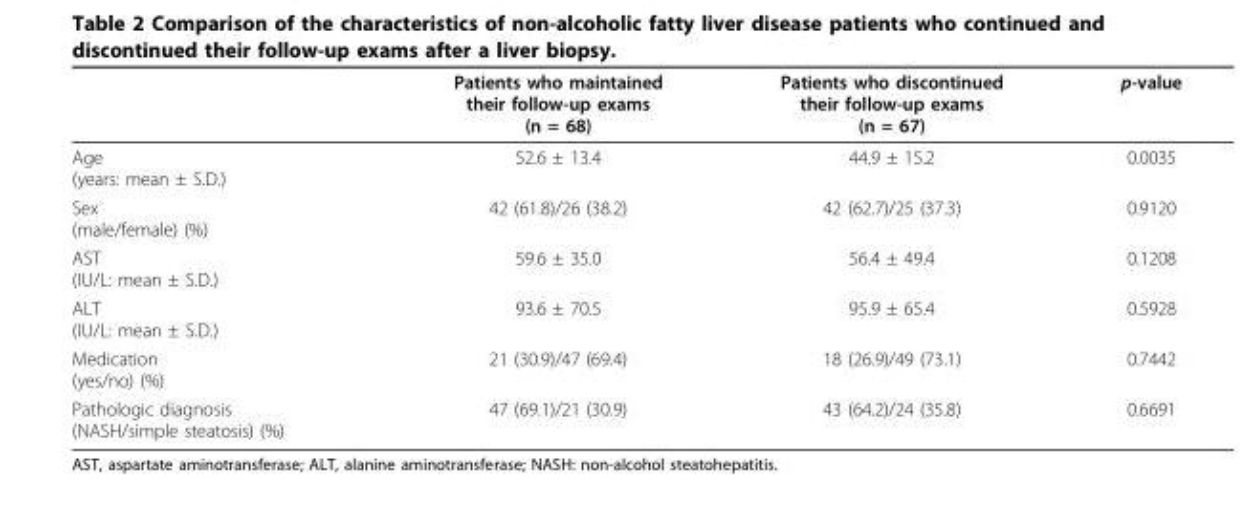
<table><thead><tr><td></td><td>Patients who maintained their follow-up exams (n = 68)</td><td>Patients who discontinued their follow-up exams (n = 67)</td><td>p-value</td></tr></thead><tbody><tr><td>Age (years: mean ± S.D.)</td><td>52.6 ± 13.4</td><td>44.9 ± 15.2</td><td>0.0035</td></tr><tr><td>Sex (male/female) (%)</td><td>42 (61.8)/26 (38.2)</td><td>42 (62.7)/25 (37.3)</td><td>0.9120</td></tr><tr><td>AST (IU/L: mean ± S.D.)</td><td>59.6 ± 35.0</td><td>56.4 ± 49.4</td><td>0.1208</td></tr><tr><td>ALT (IU/L: mean ± S.D.)</td><td>93.6 ± 70.5</td><td>95.9 ± 65.4</td><td>0.5928</td></tr><tr><td>Medication (yes/no) (%)</td><td>21 (30.9)/47 (69.4)</td><td>18 (26.9)/49 (73.1)</td><td>0.7442</td></tr><tr><td>Pathologic diagnosis (NASH/simple steatosis) (%)</td><td>47 (69.1)/21 (30.9)</td><td>43 (64.2)/24 (35.8)</td><td>0.6691</td></tr></tbody></table>